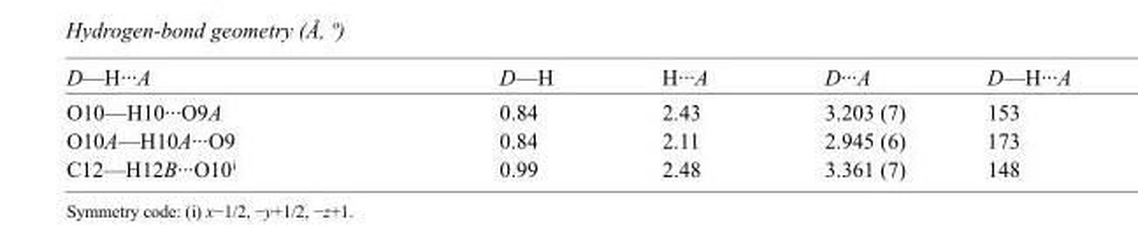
<table><tbody><tr><td>D—H···A</td><td>D—H</td><td>H···A</td><td>D···A</td><td>D—H···A</td></tr><tr><td>O10—H10···O9A</td><td>0.84</td><td>2.43</td><td>3.203 (7)</td><td>153</td></tr><tr><td>O10A—H10A···O9</td><td>0.84</td><td>2.11</td><td>2.945 (6)</td><td>173</td></tr><tr><td>C12—H12B···O10<sup>i</sup></td><td>0.99</td><td>2.48</td><td>3.361 (7)</td><td>148</td></tr></tbody></table>